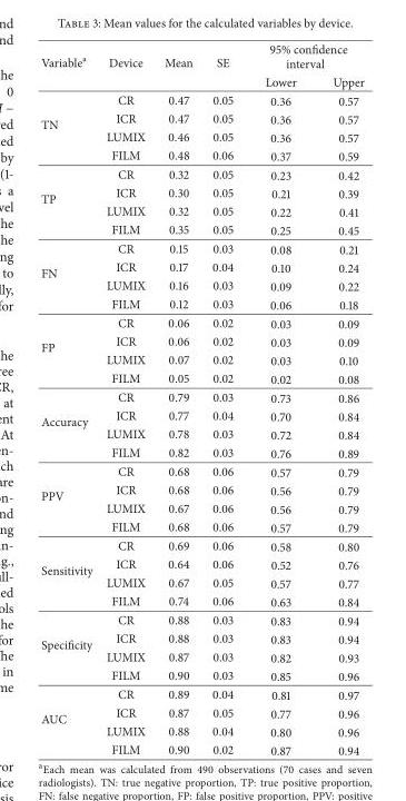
<table><thead><tr><td rowspan="2">Variablea</td><td rowspan="2">Device</td><td rowspan="2">Mean</td><td rowspan="2">SE</td><td colspan="2">95% confidence interval</td></tr><tr><td>Lower</td><td>Upper</td></tr></thead><tbody><tr><td rowspan="4">TN</td><td>CR</td><td>0.47</td><td>0.05</td><td>0.36</td><td>0.57</td></tr><tr><td>ICR</td><td>0.47</td><td>0.05</td><td>0.36</td><td>0.57</td></tr><tr><td>LUMIX</td><td>0.46</td><td>0.05</td><td>0.36</td><td>0.57</td></tr><tr><td>FILM</td><td>0.48</td><td>0.06</td><td>0.37</td><td>0.59</td></tr><tr><td rowspan="4">TP</td><td>CR</td><td>0.32</td><td>0.05</td><td>0.23</td><td>0.42</td></tr><tr><td>ICR</td><td>0.30</td><td>0.05</td><td>0.21</td><td>0.39</td></tr><tr><td>LUMIX</td><td>0.32</td><td>0.05</td><td>0.22</td><td>0.41</td></tr><tr><td>FILM</td><td>0.35</td><td>0.05</td><td>0.25</td><td>0.45</td></tr><tr><td rowspan="4">FN</td><td>CR</td><td>0.15</td><td>0.03</td><td>0.08</td><td>0.21</td></tr><tr><td>ICR</td><td>0.17</td><td>0.04</td><td>0.10</td><td>0.24</td></tr><tr><td>LUMIX</td><td>0.16</td><td>0.03</td><td>0.09</td><td>0.22</td></tr><tr><td>FILM</td><td>0.12</td><td>0.03</td><td>0.06</td><td>0.18</td></tr><tr><td rowspan="4">FP</td><td>CR</td><td>0.06</td><td>0.02</td><td>0.03</td><td>0.09</td></tr><tr><td>ICR</td><td>0.06</td><td>0.02</td><td>0.03</td><td>0.09</td></tr><tr><td>LUMIX</td><td>0.07</td><td>0.02</td><td>0.03</td><td>0.10</td></tr><tr><td>FILM</td><td>0.05</td><td>0.02</td><td>0.02</td><td>0.08</td></tr><tr><td rowspan="4">Accuracy</td><td>CR</td><td>0.79</td><td>0.03</td><td>0.73</td><td>0.86</td></tr><tr><td>ICR</td><td>0.77</td><td>0.04</td><td>0.70</td><td>0.84</td></tr><tr><td>LUMIX</td><td>0.78</td><td>0.03</td><td>0.72</td><td>0.84</td></tr><tr><td>FILM</td><td>0.82</td><td>0.03</td><td>0.76</td><td>0.89</td></tr><tr><td rowspan="4">PPV</td><td>CR</td><td>0.68</td><td>0.06</td><td>0.57</td><td>0.79</td></tr><tr><td>ICR</td><td>0.68</td><td>0.06</td><td>0.56</td><td>0.79</td></tr><tr><td>LUMIX</td><td>0.67</td><td>0.06</td><td>0.56</td><td>0.79</td></tr><tr><td>FILM</td><td>0.68</td><td>0.06</td><td>0.57</td><td>0.79</td></tr><tr><td rowspan="4">Sensitivity</td><td>CR</td><td>0.69</td><td>0.06</td><td>0.58</td><td>0.80</td></tr><tr><td>ICR</td><td>0.64</td><td>0.06</td><td>0.52</td><td>0.76</td></tr><tr><td>LUMIX</td><td>0.67</td><td>0.05</td><td>0.57</td><td>0.77</td></tr><tr><td>FILM</td><td>0.74</td><td>0.06</td><td>0.63</td><td>0.84</td></tr><tr><td rowspan="4">Specificity</td><td>CR</td><td>0.88</td><td>0.03</td><td>0.83</td><td>0.94</td></tr><tr><td>ICR</td><td>0.88</td><td>0.03</td><td>0.83</td><td>0.94</td></tr><tr><td>LUMIX</td><td>0.87</td><td>0.03</td><td>0.82</td><td>0.93</td></tr><tr><td>FILM</td><td>0.90</td><td>0.03</td><td>0.85</td><td>0.96</td></tr><tr><td rowspan="4">AUC</td><td>CR</td><td>0.89</td><td>0.04</td><td>0.81</td><td>0.97</td></tr><tr><td>ICR</td><td>0.87</td><td>0.05</td><td>0.77</td><td>0.96</td></tr><tr><td>LUMIX</td><td>0.88</td><td>0.04</td><td>0.80</td><td>0.96</td></tr><tr><td>FILM</td><td>0.90</td><td>0.02</td><td>0.87</td><td>0.94</td></tr></tbody></table>